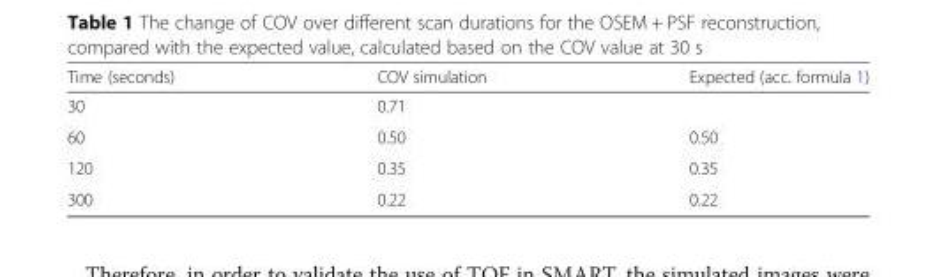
<table><thead><tr><td>Time (seconds)</td><td>COV simulation</td><td>Expected (acc. formula 1)</td></tr></thead><tbody><tr><td>30</td><td>0.71</td><td></td></tr><tr><td>60</td><td>0.50</td><td>0.50</td></tr><tr><td>120</td><td>0.35</td><td>0.35</td></tr><tr><td>300</td><td>0.22</td><td>0.22</td></tr></tbody></table>